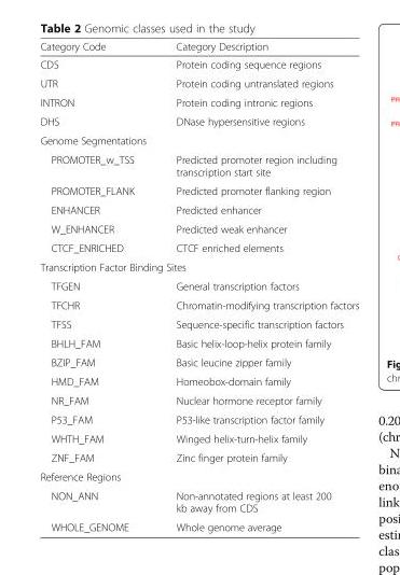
<table><thead><tr><td>Category Code</td><td>Category Description</td></tr></thead><tbody><tr><td>CDS</td><td>Protein coding sequence regions</td></tr><tr><td>UTR</td><td>Protein coding untranslated regions</td></tr><tr><td>INTRON</td><td>Protein coding intronic regions</td></tr><tr><td>DHS</td><td>DNase hypersensitive regions</td></tr><tr><td colspan="2">Genome Segmentations</td></tr><tr><td>PROMOTER_w_TSS</td><td>Predicted promoter region including transcription start site</td></tr><tr><td>PROMOTER_FLANK</td><td>Predicted promoter flanking region</td></tr><tr><td>ENHANCER</td><td>Predicted enhancer</td></tr><tr><td>W_ENHANCER</td><td>Predicted weak enhancer</td></tr><tr><td>CTCF_ENRICHED</td><td>CTCF enriched elements</td></tr><tr><td colspan="2">Transcription Factor Binding Sites</td></tr><tr><td>TFGEN</td><td>General transcription factors</td></tr><tr><td>TFCHR</td><td>Chromatin-modifying transcription factors</td></tr><tr><td>TFSS</td><td>Sequence-specific transcription factors</td></tr><tr><td>BHLH_FAM</td><td>Basic helix-loop-helix protein family</td></tr><tr><td>BZIP_FAM</td><td>Basic leucine zipper family</td></tr><tr><td>HMD_FAM</td><td>Homeobox-domain family</td></tr><tr><td>NR_FAM</td><td>Nuclear hormone receptor family</td></tr><tr><td>P53_FAM</td><td>P53-like transcription factor family</td></tr><tr><td>WHTH_FAM</td><td>Winged helix-turn-helix family</td></tr><tr><td>ZNF_FAM</td><td>Zinc finger protein family</td></tr><tr><td colspan="2">Reference Regions</td></tr><tr><td>NON_ANN</td><td>Non-annotated regions at least 200 kb away from CDS</td></tr><tr><td>WHOLE_GENOME</td><td>Whole genome average</td></tr></tbody></table>